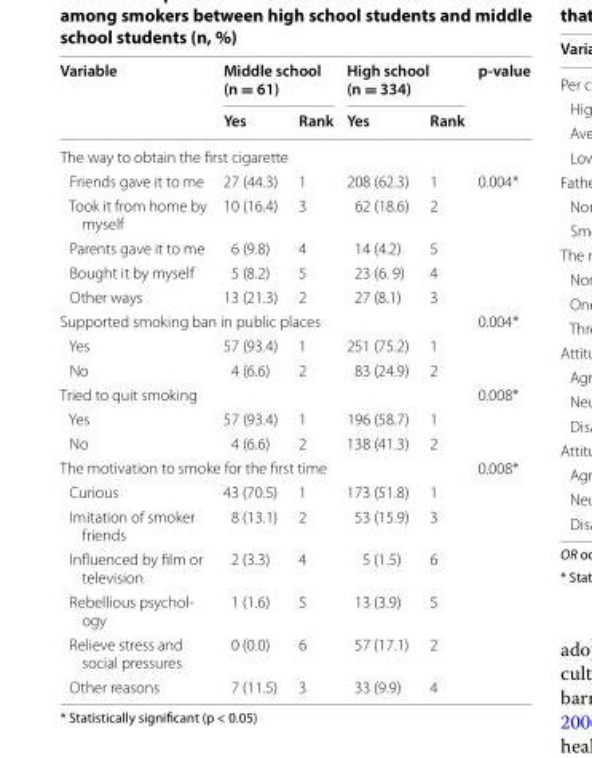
<table><thead><tr><td rowspan="2">Variable</td><td colspan="2">Middle school (n = 61)</td><td colspan="2">High school (n = 334)</td><td rowspan="2">p‑value</td></tr><tr><td>Yes</td><td>Rank</td><td>Yes</td><td>Rank</td></tr></thead><tbody><tr><td colspan="6">The way to obtain the first cigarette</td></tr><tr><td>Friends gave it to me</td><td>27 (44.3)</td><td>1</td><td>208 (62.3)</td><td>1</td><td rowspan="5">0.004*</td></tr><tr><td>Took it from home by myself</td><td>10 (16.4)</td><td>3</td><td>62 (18.6)</td><td>2</td></tr><tr><td>Parents gave it to me</td><td>6 (9.8)</td><td>4</td><td>14 (4.2)</td><td>5</td></tr><tr><td>Bought it by myself</td><td>5 (8.2)</td><td>5</td><td>23 (6. 9)</td><td>4</td></tr><tr><td>Other ways</td><td>13 (21.3)</td><td>2</td><td>27 (8.1)</td><td>3</td></tr><tr><td colspan="5">Supported smoking ban in public places</td><td rowspan="3">0.004*</td></tr><tr><td>Yes</td><td>57 (93.4)</td><td>1</td><td>251 (75.2)</td><td>1</td></tr><tr><td>No</td><td>4 (6.6)</td><td>2</td><td>83 (24.9)</td><td>2</td></tr><tr><td colspan="5">Tried to quit smoking</td><td rowspan="3">0.008*</td></tr><tr><td>Yes</td><td>57 (93.4)</td><td>1</td><td>196 (58.7)</td><td>1</td></tr><tr><td>No</td><td>4 (6.6)</td><td>2</td><td>138 (41.3)</td><td>2</td></tr><tr><td colspan="5">The motivation to smoke for the first time</td><td rowspan="7">0.008*</td></tr><tr><td>Curious</td><td>43 (70.5)</td><td>1</td><td>173 (51.8)</td><td>1</td></tr><tr><td>Imitation of smoker friends</td><td>8 (13.1)</td><td>2</td><td>53 (15.9)</td><td>3</td></tr><tr><td>Influenced by film or television</td><td>2 (3.3)</td><td>4</td><td>5 (1.5)</td><td>6</td></tr><tr><td>Rebellious psychol- ogy</td><td>1 (1.6)</td><td>5</td><td>13 (3.9)</td><td>5</td></tr><tr><td>Relieve stress and social pressures</td><td>0 (0.0)</td><td>6</td><td>57 (17.1)</td><td>2</td></tr><tr><td>Other reasons</td><td>7 (11.5)</td><td>3</td><td>33 (9.9)</td><td>4</td></tr></tbody></table>